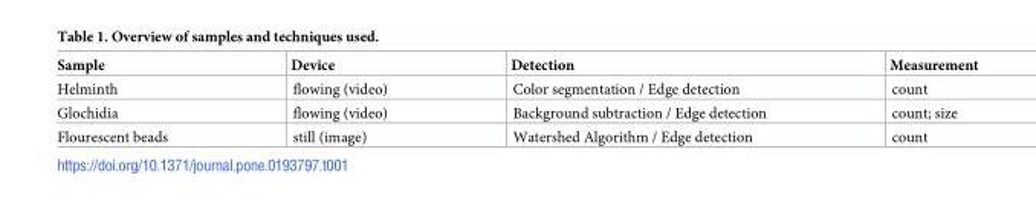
<table><thead><tr><td>Sample</td><td>Device</td><td>Detection</td><td>Measurement</td></tr></thead><tbody><tr><td>Helminth</td><td>flowing (video)</td><td>Color segmentation / Edge detection</td><td>count</td></tr><tr><td>Glochidia</td><td>flowing (video)</td><td>Background subtraction / Edge detection</td><td>count; size</td></tr><tr><td>Flourescent beads</td><td>still (image)</td><td>Watershed Algorithm / Edge detection</td><td>count</td></tr></tbody></table>